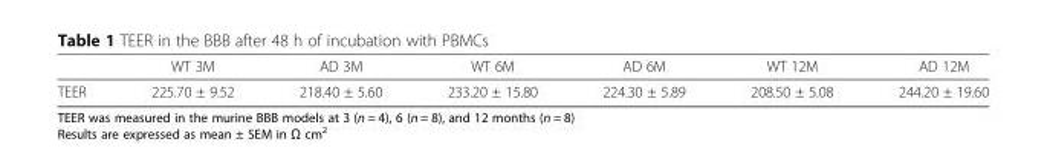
<table><thead><tr><td></td><td>WT 3M</td><td>AD 3M</td><td>WT 6M</td><td>AD 6M</td><td>WT 12M</td><td>AD 12M</td></tr></thead><tbody><tr><td>TEER</td><td>225.70 ± 9.52</td><td>218.40 ± 5.60</td><td>233.20 ± 15.80</td><td>224.30 ± 5.89</td><td>208.50 ± 5.08</td><td>244.20 ± 19.60</td></tr></tbody></table>